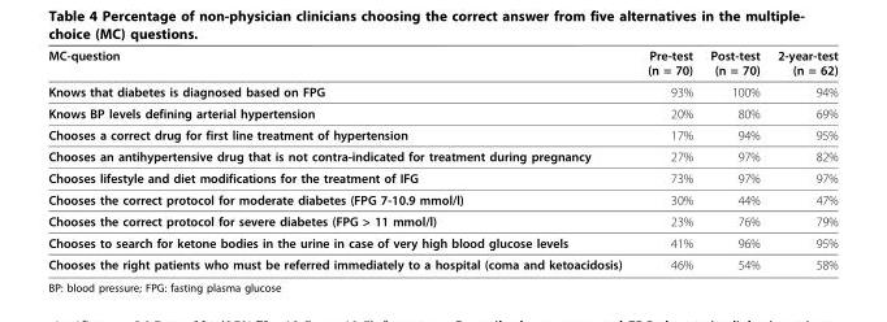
<table><thead><tr><td>MC-question</td><td>Pre-test (n = 70)</td><td>Post-test (n = 70)</td><td>2-year-test (n = 62)</td></tr></thead><tbody><tr><td>Knows that diabetes is diagnosed based on FPG</td><td>93%</td><td>100%</td><td>94%</td></tr><tr><td>Knows BP levels defining arterial hypertension</td><td>20%</td><td>80%</td><td>69%</td></tr><tr><td>Chooses a correct drug for first line treatment of hypertension</td><td>17%</td><td>94%</td><td>95%</td></tr><tr><td>Chooses an antihypertensive drug that is not contra-indicated for treatment during pregnancy</td><td>27%</td><td>97%</td><td>82%</td></tr><tr><td>Chooses lifestyle and diet modifications for the treatment of IFG</td><td>73%</td><td>97%</td><td>97%</td></tr><tr><td>Chooses the correct protocol for moderate diabetes (FPG 7-10.9 mmol/l)</td><td>30%</td><td>44%</td><td>47%</td></tr><tr><td>Chooses the correct protocol for severe diabetes (FPG &gt; 11 mmol/l)</td><td>23%</td><td>76%</td><td>79%</td></tr><tr><td>Chooses to search for ketone bodies in the urine in case of very high blood glucose levels</td><td>41%</td><td>96%</td><td>95%</td></tr><tr><td>Chooses the right patients who must be referred immediately to a hospital (coma and ketoacidosis)</td><td>46%</td><td>54%</td><td>58%</td></tr></tbody></table>